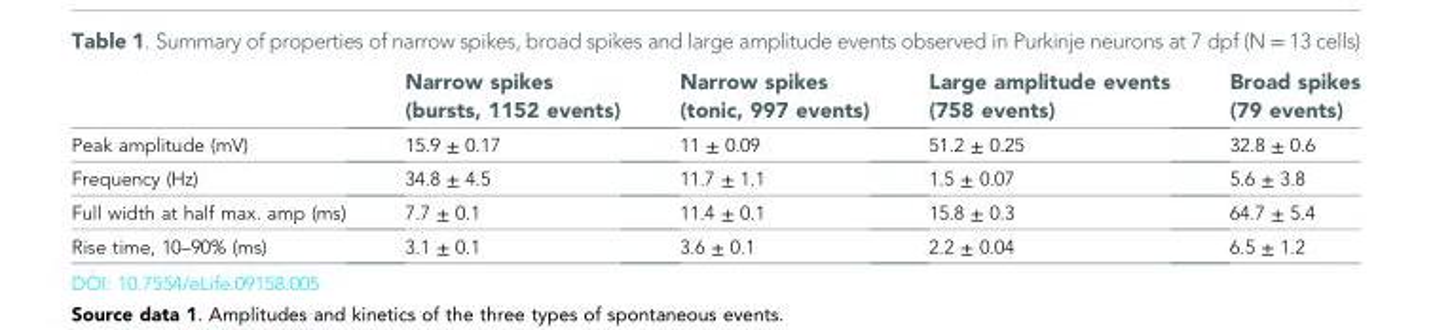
<table><thead><tr><td></td><td>Narrow spikes (bursts, 1152 events)</td><td>Narrow spikes (tonic, 997 events)</td><td>Large amplitude events (758 events)</td><td>Broad spikes (79 events)</td></tr></thead><tbody><tr><td>Peak amplitude (mV)</td><td>15.9 ± 0.17</td><td>11 ± 0.09</td><td>51.2 ± 0.25</td><td>32.8 ± 0.6</td></tr><tr><td>Frequency (Hz)</td><td>34.8 ± 4.5</td><td>11.7 ± 1.1</td><td>1.5 ± 0.07</td><td>5.6 ± 3.8</td></tr><tr><td>Full width at half max. amp (ms)</td><td>7.7 ± 0.1</td><td>11.4 ± 0.1</td><td>15.8 ± 0.3</td><td>64.7 ± 5.4</td></tr><tr><td>Rise time, 10–90% (ms)</td><td>3.1 ± 0.1</td><td>3.6 ± 0.1</td><td>2.2 ± 0.04</td><td>6.5 ± 1.2</td></tr></tbody></table>